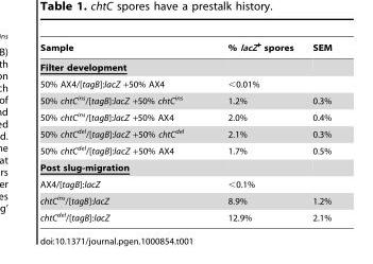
<table><thead><tr><td>Sample</td><td>% lacZ<sup>+</sup> spores</td><td>SEM</td></tr></thead><tbody><tr><td colspan="3">Filter development</td></tr><tr><td>50% AX4/[tagB]:lacZ +50% AX4</td><td>&lt;0.01%</td><td></td></tr><tr><td>50% chtC<sup>ins</sup>/[tagB]:lacZ +50% chtC<sup>ins</sup></td><td>1.2%</td><td>0.3%</td></tr><tr><td>50% chtC<sup>ins</sup>/[tagB]:lacZ +50% AX4</td><td>2.0%</td><td>0.4%</td></tr><tr><td>50% chtC<sup>del</sup>/[tagB]:lacZ +50% chtC<sup>del</sup></td><td>2.1%</td><td>0.3%</td></tr><tr><td>50% chtC<sup>del</sup>/[tagB]:lacZ +50% AX4</td><td>1.7%</td><td>0.5%</td></tr><tr><td colspan="3">Post slug-migration</td></tr><tr><td>AX4/[tagB]:lacZ</td><td>&lt;0.1%</td><td></td></tr><tr><td>chtC<sup>ins</sup>/[tagB]:lacZ</td><td>8.9%</td><td>1.2%</td></tr><tr><td>chtC<sup>del</sup>/[tagB]:lacZ</td><td>12.9%</td><td>2.1%</td></tr></tbody></table>